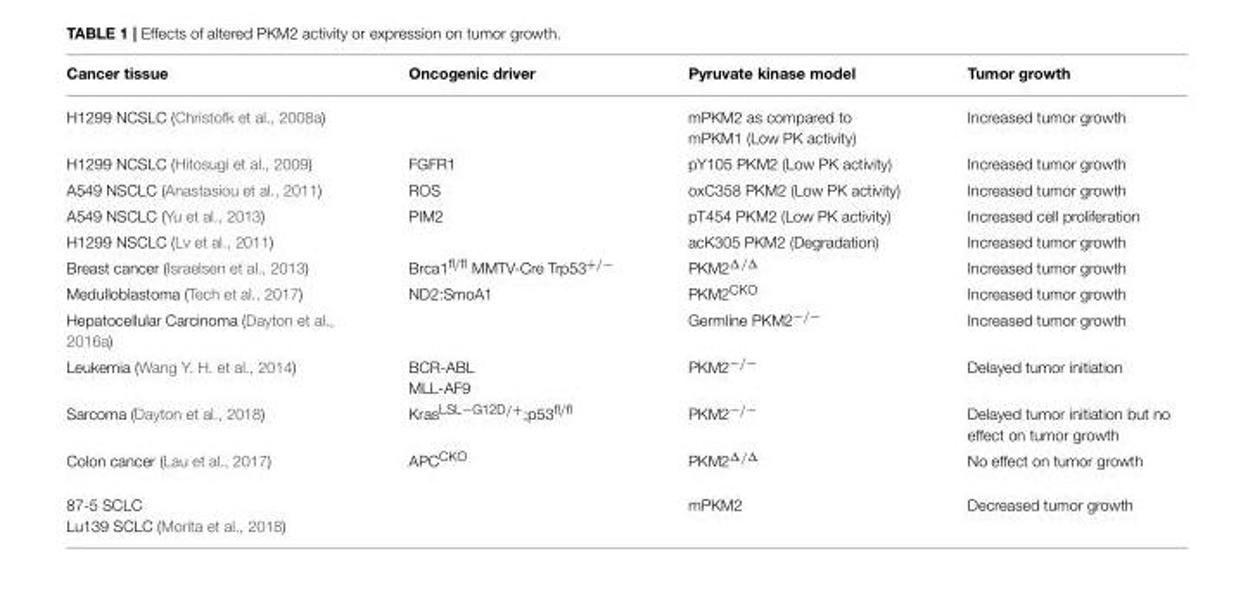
<table><thead><tr><td>Cancer tissue</td><td>Oncogenic driver</td><td>Pyruvate kinase model</td><td>Tumor growth</td></tr></thead><tbody><tr><td>H1299 NCSLC (Christofk et al., 2008a)</td><td></td><td>mPKM2 as compared to mPKM1 (Low PK activity)</td><td>Increased tumor growth</td></tr><tr><td>H1299 NCSLC (Hitosugi et al., 2009)</td><td>FGFR1</td><td>pY105 PKM2 (Low PK activity)</td><td>Increased tumor growth</td></tr><tr><td>A549 NSCLC (Anastasiou et al., 2011)</td><td>ROS</td><td>oxC358 PKM2 (Low PK activity)</td><td>Increased tumor growth</td></tr><tr><td>A549 NSCLC (Yu et al., 2013)</td><td>PIM2</td><td>pT454 PKM2 (Low PK activity)</td><td>Increased cell proliferation</td></tr><tr><td>H1299 NSCLC (Lv et al., 2011)</td><td></td><td>acK305 PKM2 (Degradation)</td><td>Increased tumor growth</td></tr><tr><td>Breast cancer (Israelsen et al., 2013)</td><td>Brca1<sup>fl/fl</sup> MMTV-Cre Trp53<sup>+/−</sup></td><td>PKM2<sup>Δ/Δ</sup></td><td>Increased tumor growth</td></tr><tr><td>Medulloblastoma (Tech et al., 2017)</td><td>ND2:SmoA1</td><td>PKM2<sup>CKO</sup></td><td>Increased tumor growth</td></tr><tr><td>Hepatocellular Carcinoma (Dayton et al., 2016a)</td><td></td><td>Germline PKM2<sup>−/−</sup></td><td>Increased tumor growth</td></tr><tr><td>Leukemia (Wang Y. H. et al., 2014)</td><td>BCR-ABL MLL-AF9</td><td>PKM2<sup>−/−</sup></td><td>Delayed tumor initiation</td></tr><tr><td>Sarcoma (Dayton et al., 2018)</td><td>Kras<sup>LSL−G12D/+</sup>;p53<sup>fl/fl</sup></td><td>PKM2<sup>−/−</sup></td><td>Delayed tumor initiation but no effect on tumor growth</td></tr><tr><td>Colon cancer (Lau et al., 2017)</td><td>APC<sup>CKO</sup></td><td>PKM2<sup>Δ/Δ</sup></td><td>No effect on tumor growth</td></tr><tr><td>87-5 SCLC Lu139 SCLC (Morita et al., 2018)</td><td></td><td>mPKM2</td><td>Decreased tumor growth</td></tr></tbody></table>